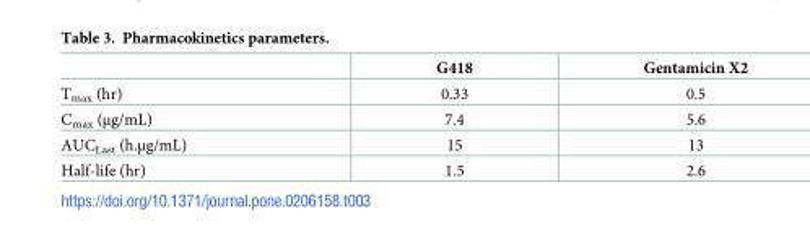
<table><thead><tr><td></td><td>G418</td><td>Gentamicin X2</td></tr></thead><tbody><tr><td>T<sub>max</sub> (hr)</td><td>0.33</td><td>0.5</td></tr><tr><td>C<sub>max</sub> (μg/mL)</td><td>7.4</td><td>5.6</td></tr><tr><td>AUC<sub>Last</sub> (h.μg/mL)</td><td>15</td><td>13</td></tr><tr><td>Half-life (hr)</td><td>1.5</td><td>2.6</td></tr></tbody></table>